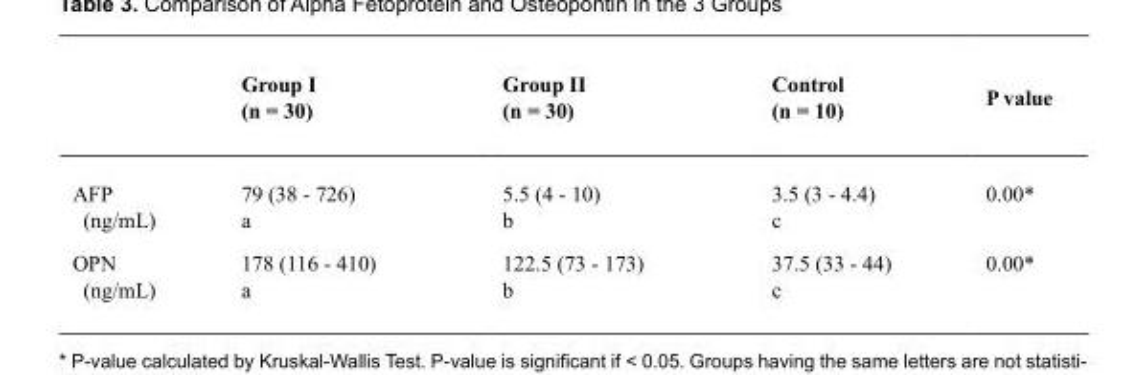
<table><thead><tr><td></td><td>Group I (n = 30)</td><td>Group II (n = 30)</td><td>Control (n = 10)</td><td>P value</td></tr></thead><tbody><tr><td>AFP (ng/mL)</td><td>79 (38 - 726) a</td><td>5.5 (4 - 10) b</td><td>3.5 (3 - 4.4) c</td><td>0.00*</td></tr><tr><td>OPN (ng/mL)</td><td>178 (116 - 410) a</td><td>122.5 (73 - 173) b</td><td>37.5 (33 - 44) c</td><td>0.00*</td></tr></tbody></table>